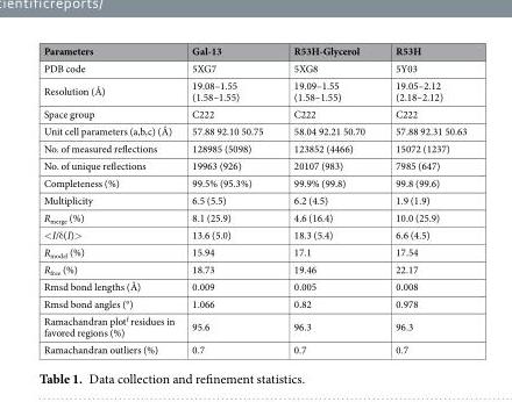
<table><thead><tr><td>Parameters</td><td>Gal-13</td><td>R53H-Glycerol</td><td>R53H</td></tr></thead><tbody><tr><td>PDB code</td><td>5XG7</td><td>5XG8</td><td>5Y03</td></tr><tr><td>Resolution (Å)</td><td>19.08–1.55 (1.58–1.55)</td><td>19.09–1.55 (1.58–1.55)</td><td>19.05–2.12 (2.18–2.12)</td></tr><tr><td>Space group</td><td>C222</td><td>C222</td><td>C222</td></tr><tr><td>Unit cell parameters (a,b,c) (Å)</td><td>57.88 92.10 50.75</td><td>58.04 92.21 50.70</td><td>57.88 92.31 50.63</td></tr><tr><td>No. of measured reflections</td><td>128985 (5098)</td><td>123852 (4466)</td><td>15072 (1237)</td></tr><tr><td>No. of unique reflections</td><td>19963 (926)</td><td>20107 (983)</td><td>7985 (647)</td></tr><tr><td>Completeness (%)</td><td>99.5% (95.3%)</td><td>99.9% (99.8)</td><td>99.8 (99.6)</td></tr><tr><td>Multiplicity</td><td>6.5 (5.5)</td><td>6.2 (4.5)</td><td>1.9 (1.9)</td></tr><tr><td>R<sub>merge</sub> (%)</td><td>8.1 (25.9)</td><td>4.6 (16.4)</td><td>10.0 (25.9)</td></tr><tr><td>&lt;I/δ(I)&gt;</td><td>13.6 (5.0)</td><td>18.3 (5.4)</td><td>6.6 (4.5)</td></tr><tr><td>R<sub>model</sub> (%)</td><td>15.94</td><td>17.1</td><td>17.54</td></tr><tr><td>R<sub>free</sub> (%)</td><td>18.73</td><td>19.46</td><td>22.17</td></tr><tr><td>Rmsd bond lengths (Å)</td><td>0.009</td><td>0.005</td><td>0.008</td></tr><tr><td>Rmsd bond angles (°)</td><td>1.066</td><td>0.82</td><td>0.978</td></tr><tr><td>Ramachandran plot<sup>f</sup> residues in favored regions (%)</td><td>95.6</td><td>96.3</td><td>96.3</td></tr><tr><td>Ramachandran outliers (%)</td><td>0.7</td><td>0.7</td><td>0.7</td></tr></tbody></table>